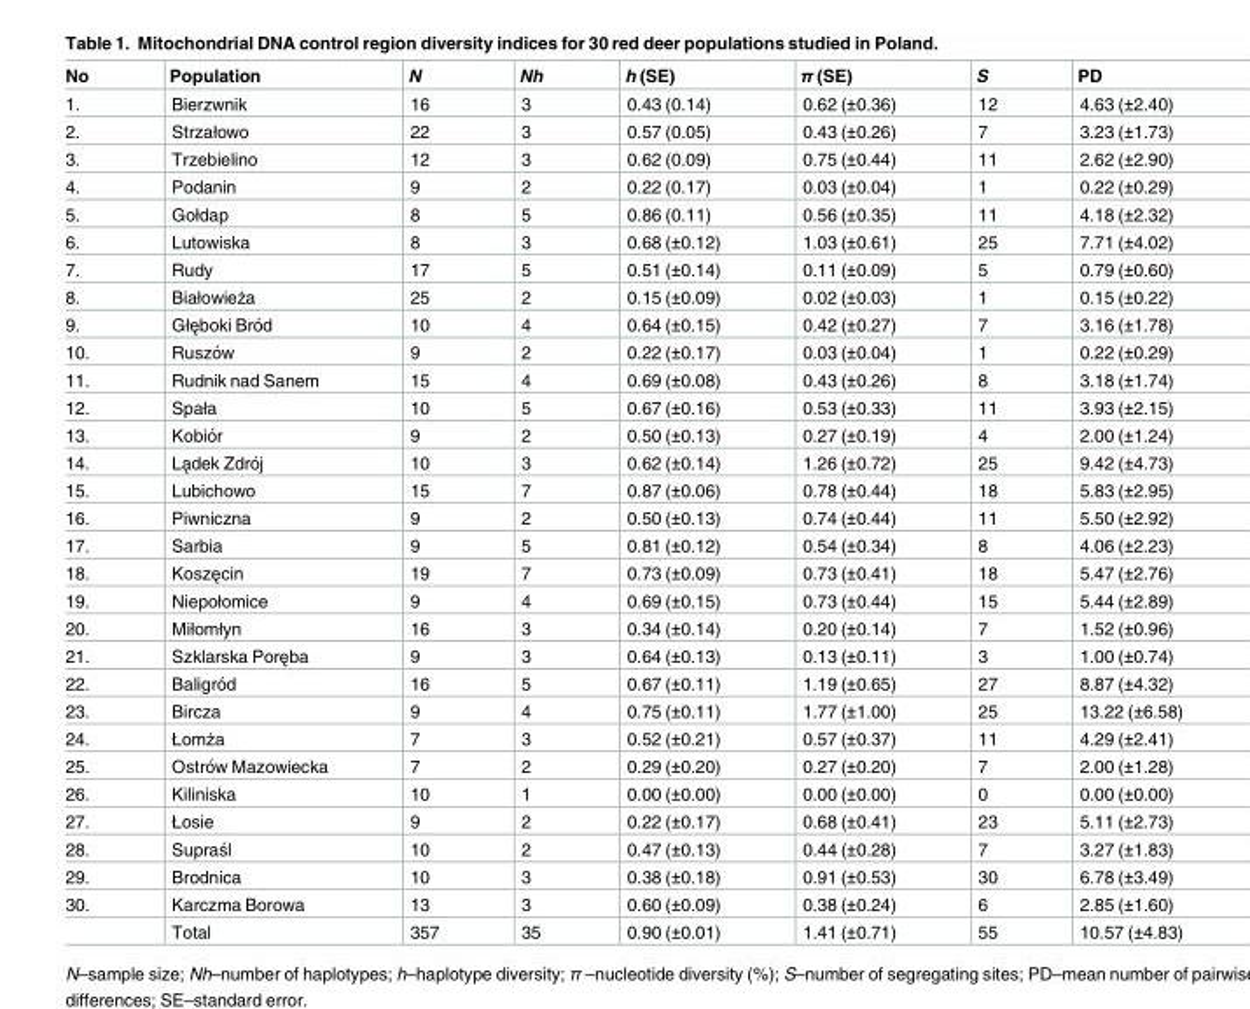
<table><thead><tr><td>No</td><td>Population</td><td>N</td><td>Nh</td><td>h (SE)</td><td>π (SE)</td><td>S</td><td>PD</td></tr></thead><tbody><tr><td>1.</td><td>Bierzwnik</td><td>16</td><td>3</td><td>0.43 (0.14)</td><td>0.62 (±0.36)</td><td>12</td><td>4.63 (±2.40)</td></tr><tr><td>2.</td><td>Strzałowo</td><td>22</td><td>3</td><td>0.57 (0.05)</td><td>0.43 (±0.26)</td><td>7</td><td>3.23 (±1.73)</td></tr><tr><td>3.</td><td>Trzebielino</td><td>12</td><td>3</td><td>0.62 (0.09)</td><td>0.75 (±0.44)</td><td>11</td><td>2.62 (±2.90)</td></tr><tr><td>4.</td><td>Podanin</td><td>9</td><td>2</td><td>0.22 (0.17)</td><td>0.03 (±0.04)</td><td>1</td><td>0.22 (±0.29)</td></tr><tr><td>5.</td><td>Gołdap</td><td>8</td><td>5</td><td>0.86 (0.11)</td><td>0.56 (±0.35)</td><td>11</td><td>4.18 (±2.32)</td></tr><tr><td>6.</td><td>Lutowiska</td><td>8</td><td>3</td><td>0.68 (±0.12)</td><td>1.03 (±0.61)</td><td>25</td><td>7.71 (±4.02)</td></tr><tr><td>7.</td><td>Rudy</td><td>17</td><td>5</td><td>0.51 (±0.14)</td><td>0.11 (±0.09)</td><td>5</td><td>0.79 (±0.60)</td></tr><tr><td>8.</td><td>Białowieża</td><td>25</td><td>2</td><td>0.15 (±0.09)</td><td>0.02 (±0.03)</td><td>1</td><td>0.15 (±0.22)</td></tr><tr><td>9.</td><td>Głęboki Bro´d</td><td>10</td><td>4</td><td>0.64 (±0.15)</td><td>0.42 (±0.27)</td><td>7</td><td>3.16 (±1.78)</td></tr><tr><td>10.</td><td>Ruszo´w</td><td>9</td><td>2</td><td>0.22 (±0.17)</td><td>0.03 (±0.04)</td><td>1</td><td>0.22 (±0.29)</td></tr><tr><td>11.</td><td>Rudnik nad Sanem</td><td>15</td><td>4</td><td>0.69 (±0.08)</td><td>0.43 (±0.26)</td><td>8</td><td>3.18 (±1.74)</td></tr><tr><td>12.</td><td>Spała</td><td>10</td><td>5</td><td>0.67 (±0.16)</td><td>0.53 (±0.33)</td><td>11</td><td>3.93 (±2.15)</td></tr><tr><td>13.</td><td>Kobio´r</td><td>9</td><td>2</td><td>0.50 (±0.13)</td><td>0.27 (±0.19)</td><td>4</td><td>2.00 (±1.24)</td></tr><tr><td>14.</td><td>La˛dek Zdro´j</td><td>10</td><td>3</td><td>0.62 (±0.14)</td><td>1.26 (±0.72)</td><td>25</td><td>9.42 (±4.73)</td></tr><tr><td>15.</td><td>Lubichowo</td><td>15</td><td>7</td><td>0.87 (±0.06)</td><td>0.78 (±0.44)</td><td>18</td><td>5.83 (±2.95)</td></tr><tr><td>16.</td><td>Piwniczna</td><td>9</td><td>2</td><td>0.50 (±0.13)</td><td>0.74 (±0.44)</td><td>11</td><td>5.50 (±2.92)</td></tr><tr><td>17.</td><td>Sarbia</td><td>9</td><td>5</td><td>0.81 (±0.12)</td><td>0.54 (±0.34)</td><td>8</td><td>4.06 (±2.23)</td></tr><tr><td>18.</td><td>Koszęcin</td><td>19</td><td>7</td><td>0.73 (±0.09)</td><td>0.73 (±0.41)</td><td>18</td><td>5.47 (±2.76)</td></tr><tr><td>19.</td><td>Niepołomice</td><td>9</td><td>4</td><td>0.69 (±0.15)</td><td>0.73 (±0.44)</td><td>15</td><td>5.44 (±2.89)</td></tr><tr><td>20.</td><td>Miłomłyn</td><td>16</td><td>3</td><td>0.34 (±0.14)</td><td>0.20 (±0.14)</td><td>7</td><td>1.52 (±0.96)</td></tr><tr><td>21.</td><td>Szklarska Poręba</td><td>9</td><td>3</td><td>0.64 (±0.13)</td><td>0.13 (±0.11)</td><td>3</td><td>1.00 (±0.74)</td></tr><tr><td>22.</td><td>Baligro´d</td><td>16</td><td>5</td><td>0.67 (±0.11)</td><td>1.19 (±0.65)</td><td>27</td><td>8.87 (±4.32)</td></tr><tr><td>23.</td><td>Bircza</td><td>9</td><td>4</td><td>0.75 (±0.11)</td><td>1.77 (±1.00)</td><td>25</td><td>13.22 (±6.58)</td></tr><tr><td>24.</td><td>Łomża</td><td>7</td><td>3</td><td>0.52 (±0.21)</td><td>0.57 (±0.37)</td><td>11</td><td>4.29 (±2.41)</td></tr><tr><td>25.</td><td>Ostro´w Mazowiecka</td><td>7</td><td>2</td><td>0.29 (±0.20)</td><td>0.27 (±0.20)</td><td>7</td><td>2.00 (±1.28)</td></tr><tr><td>26.</td><td>Kiliniska</td><td>10</td><td>1</td><td>0.00 (±0.00)</td><td>0.00 (±0.00)</td><td>0</td><td>0.00 (±0.00)</td></tr><tr><td>27.</td><td>Łosie</td><td>9</td><td>2</td><td>0.22 (±0.17)</td><td>0.68 (±0.41)</td><td>23</td><td>5.11 (±2.73)</td></tr><tr><td>28.</td><td>Supras´l</td><td>10</td><td>2</td><td>0.47 (±0.13)</td><td>0.44 (±0.28)</td><td>7</td><td>3.27 (±1.83)</td></tr><tr><td>29.</td><td>Brodnica</td><td>10</td><td>3</td><td>0.38 (±0.18)</td><td>0.91 (±0.53)</td><td>30</td><td>6.78 (±3.49)</td></tr><tr><td rowspan="2">30.</td><td>Karczma Borowa</td><td>13</td><td>3</td><td>0.60 (±0.09)</td><td>0.38 (±0.24)</td><td>6</td><td>2.85 (±1.60)</td></tr><tr><td>Total</td><td>357</td><td>35</td><td>0.90 (±0.01)</td><td>1.41 (±0.71)</td><td>55</td><td>10.57 (±4.83)</td></tr></tbody></table>